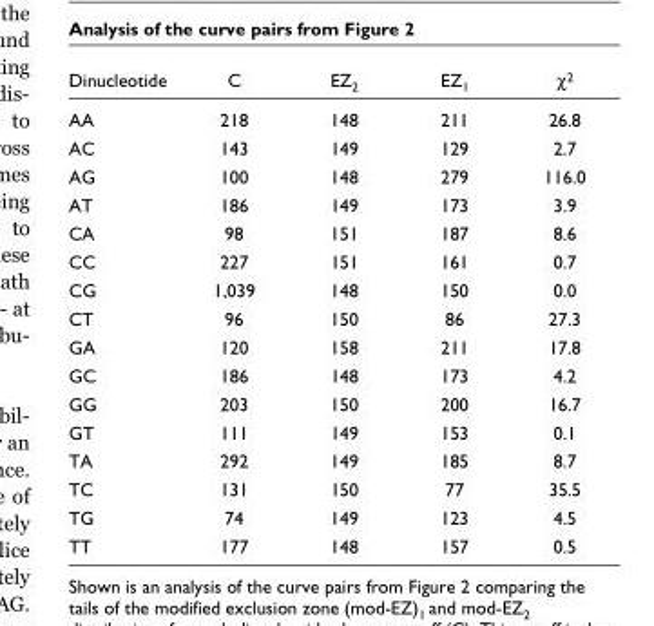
<table><thead><tr><td>Dinucleotide</td><td>C</td><td>EZ2</td><td>EZ1</td><td>χ2</td></tr></thead><tbody><tr><td>AA</td><td>218</td><td>148</td><td>211</td><td>26.8</td></tr><tr><td>AC</td><td>143</td><td>149</td><td>129</td><td>2.7</td></tr><tr><td>AG</td><td>100</td><td>148</td><td>279</td><td>116.0</td></tr><tr><td>AT</td><td>186</td><td>149</td><td>173</td><td>3.9</td></tr><tr><td>CA</td><td>98</td><td>151</td><td>187</td><td>8.6</td></tr><tr><td>CC</td><td>227</td><td>151</td><td>161</td><td>0.7</td></tr><tr><td>CG</td><td>1,039</td><td>148</td><td>150</td><td>0.0</td></tr><tr><td>CT</td><td>96</td><td>150</td><td>86</td><td>27.3</td></tr><tr><td>GA</td><td>120</td><td>158</td><td>211</td><td>17.8</td></tr><tr><td>GC</td><td>186</td><td>148</td><td>173</td><td>4.2</td></tr><tr><td>GG</td><td>203</td><td>150</td><td>200</td><td>16.7</td></tr><tr><td>GT</td><td>111</td><td>149</td><td>153</td><td>0.1</td></tr><tr><td>TA</td><td>292</td><td>149</td><td>185</td><td>8.7</td></tr><tr><td>TC</td><td>131</td><td>150</td><td>77</td><td>35.5</td></tr><tr><td>TG</td><td>74</td><td>149</td><td>123</td><td>4.5</td></tr><tr><td>TT</td><td>177</td><td>148</td><td>157</td><td>0.5</td></tr></tbody></table>